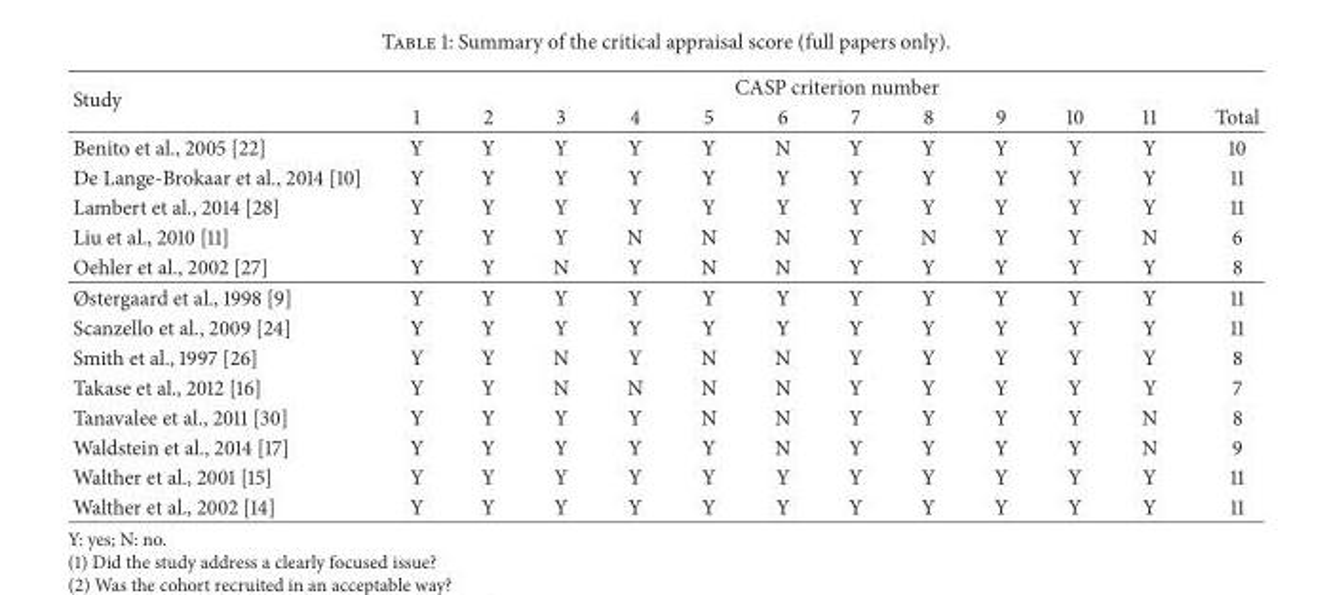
<table><thead><tr><td rowspan="2">Study</td><td colspan="12">CASP criterion number</td></tr><tr><td>1</td><td>2</td><td>3</td><td>4</td><td>5</td><td>6</td><td>7</td><td>8</td><td>9</td><td>10</td><td>11</td><td>Total</td></tr></thead><tbody><tr><td>Benito et al., 2005 [22]</td><td>Y</td><td>Y</td><td>Y</td><td>Y</td><td>Y</td><td>N</td><td>Y</td><td>Y</td><td>Y</td><td>Y</td><td>Y</td><td>10</td></tr><tr><td>De Lange-Brokaar et al., 2014 [10]</td><td>Y</td><td>Y</td><td>Y</td><td>Y</td><td>Y</td><td>Y</td><td>Y</td><td>Y</td><td>Y</td><td>Y</td><td>Y</td><td>11</td></tr><tr><td>Lambert et al., 2014 [28]</td><td>Y</td><td>Y</td><td>Y</td><td>Y</td><td>Y</td><td>Y</td><td>Y</td><td>Y</td><td>Y</td><td>Y</td><td>Y</td><td>11</td></tr><tr><td>Liu et al., 2010 [11]</td><td>Y</td><td>Y</td><td>Y</td><td>N</td><td>N</td><td>N</td><td>Y</td><td>N</td><td>Y</td><td>Y</td><td>N</td><td>6</td></tr><tr><td>Oehler et al., 2002 [27]</td><td>Y</td><td>Y</td><td>N</td><td>Y</td><td>N</td><td>N</td><td>Y</td><td>Y</td><td>Y</td><td>Y</td><td>Y</td><td>8</td></tr><tr><td>Østergaard et al., 1998 [9]</td><td>Y</td><td>Y</td><td>Y</td><td>Y</td><td>Y</td><td>Y</td><td>Y</td><td>Y</td><td>Y</td><td>Y</td><td>Y</td><td>11</td></tr><tr><td>Scanzello et al., 2009 [24]</td><td>Y</td><td>Y</td><td>Y</td><td>Y</td><td>Y</td><td>Y</td><td>Y</td><td>Y</td><td>Y</td><td>Y</td><td>Y</td><td>11</td></tr><tr><td>Smith et al., 1997 [26]</td><td>Y</td><td>Y</td><td>N</td><td>Y</td><td>N</td><td>N</td><td>Y</td><td>Y</td><td>Y</td><td>Y</td><td>Y</td><td>8</td></tr><tr><td>Takase et al., 2012 [16]</td><td>Y</td><td>Y</td><td>N</td><td>N</td><td>N</td><td>N</td><td>Y</td><td>Y</td><td>Y</td><td>Y</td><td>Y</td><td>7</td></tr><tr><td>Tanavalee et al., 2011 [30]</td><td>Y</td><td>Y</td><td>Y</td><td>Y</td><td>N</td><td>N</td><td>Y</td><td>Y</td><td>Y</td><td>Y</td><td>N</td><td>8</td></tr><tr><td>Waldstein et al., 2014 [17]</td><td>Y</td><td>Y</td><td>Y</td><td>Y</td><td>Y</td><td>N</td><td>Y</td><td>Y</td><td>Y</td><td>Y</td><td>N</td><td>9</td></tr><tr><td>Walther et al., 2001 [15]</td><td>Y</td><td>Y</td><td>Y</td><td>Y</td><td>Y</td><td>Y</td><td>Y</td><td>Y</td><td>Y</td><td>Y</td><td>Y</td><td>11</td></tr><tr><td>Walther et al., 2002 [14]</td><td>Y</td><td>Y</td><td>Y</td><td>Y</td><td>Y</td><td>Y</td><td>Y</td><td>Y</td><td>Y</td><td>Y</td><td>Y</td><td>11</td></tr></tbody></table>